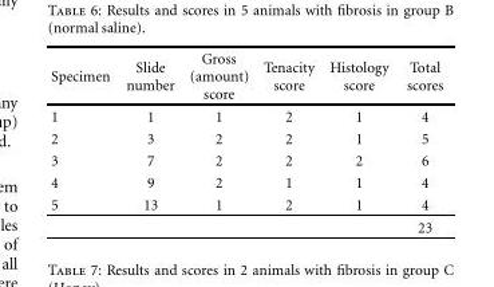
<table><thead><tr><td>Specimen</td><td>Slide number</td><td>Gross (amount) score</td><td>Tenacity score</td><td>Histology score</td><td>Total scores</td></tr></thead><tbody><tr><td>1</td><td>1</td><td>1</td><td>2</td><td>1</td><td>4</td></tr><tr><td>2</td><td>3</td><td>2</td><td>2</td><td>1</td><td>5</td></tr><tr><td>3</td><td>7</td><td>2</td><td>2</td><td>2</td><td>6</td></tr><tr><td>4</td><td>9</td><td>2</td><td>1</td><td>1</td><td>4</td></tr><tr><td rowspan="2">5</td><td>13</td><td>1</td><td>2</td><td>1</td><td>4</td></tr><tr><td></td><td></td><td></td><td></td><td>23</td></tr></tbody></table>